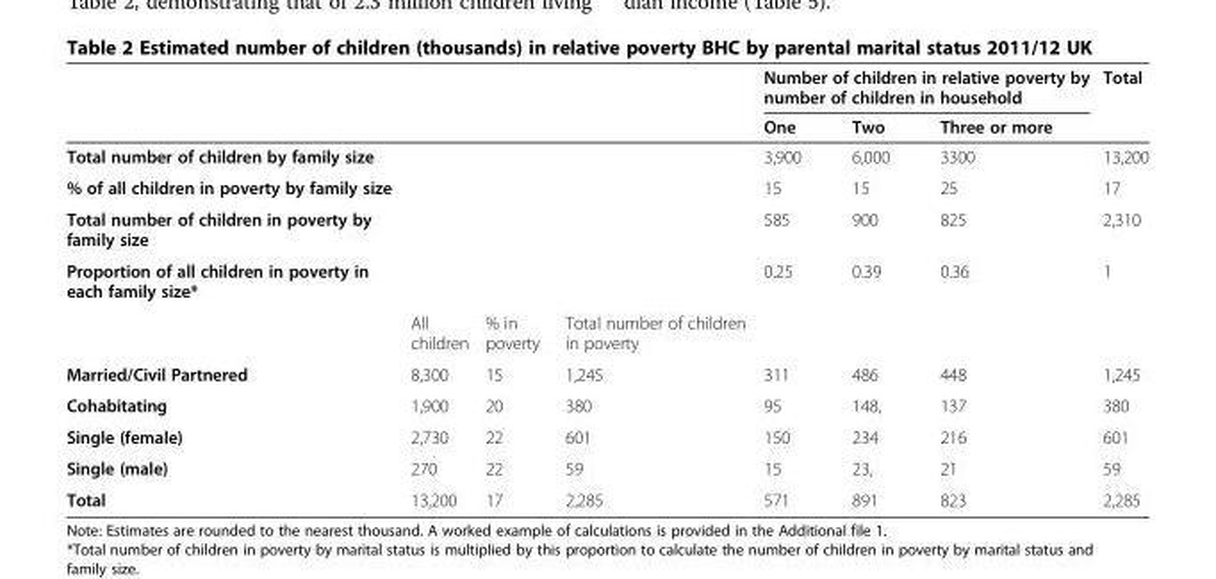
<table><thead><tr><td rowspan="2"></td><td rowspan="2"></td><td rowspan="2"></td><td rowspan="2"></td><td colspan="3">Number of children in relative poverty by number of children in household</td><td rowspan="2">Total</td></tr><tr><td>One</td><td>Two</td><td>Three or more</td></tr></thead><tbody><tr><td>Total number of children by family size</td><td></td><td></td><td></td><td>3,900</td><td>6,000</td><td>3300</td><td>13,200</td></tr><tr><td>% of all children in poverty by family size</td><td></td><td></td><td></td><td>15</td><td>15</td><td>25</td><td>17</td></tr><tr><td>Total number of children in poverty by family size</td><td></td><td></td><td></td><td>585</td><td>900</td><td>825</td><td>2,310</td></tr><tr><td rowspan="2">Proportion of all children in poverty in each family size*</td><td></td><td></td><td></td><td>0.25</td><td>0.39</td><td>0.36</td><td>1</td></tr><tr><td>All children</td><td>% in poverty</td><td>Total number of children in poverty</td><td></td><td></td><td></td><td></td></tr><tr><td>Married/Civil Partnered</td><td>8,300</td><td>15</td><td>1,245</td><td>311</td><td>486</td><td>448</td><td>1,245</td></tr><tr><td>Cohabitating</td><td>1,900</td><td>20</td><td>380</td><td>95</td><td>148,</td><td>137</td><td>380</td></tr><tr><td>Single (female)</td><td>2,730</td><td>22</td><td>601</td><td>150</td><td>234</td><td>216</td><td>601</td></tr><tr><td>Single (male)</td><td>270</td><td>22</td><td>59</td><td>15</td><td>23,</td><td>21</td><td>59</td></tr><tr><td>Total</td><td>13,200</td><td>17</td><td>2,285</td><td>571</td><td>891</td><td>823</td><td>2,285</td></tr></tbody></table>